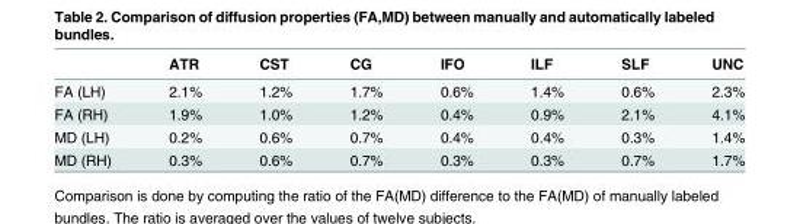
<table><thead><tr><td></td><td>ATR</td><td>CST</td><td>CG</td><td>IFO</td><td>ILF</td><td>SLF</td><td>UNC</td></tr></thead><tbody><tr><td>FA (LH)</td><td>2.1%</td><td>1.2%</td><td>1.7%</td><td>0.6%</td><td>1.4%</td><td>0.6%</td><td>2.3%</td></tr><tr><td>FA (RH)</td><td>1.9%</td><td>1.0%</td><td>1.2%</td><td>0.4%</td><td>0.9%</td><td>2.1%</td><td>4.1%</td></tr><tr><td>MD (LH)</td><td>0.2%</td><td>0.6%</td><td>0.7%</td><td>0.4%</td><td>0.4%</td><td>0.3%</td><td>1.4%</td></tr><tr><td>MD (RH)</td><td>0.3%</td><td>0.6%</td><td>0.7%</td><td>0.3%</td><td>0.3%</td><td>0.7%</td><td>1.7%</td></tr></tbody></table>